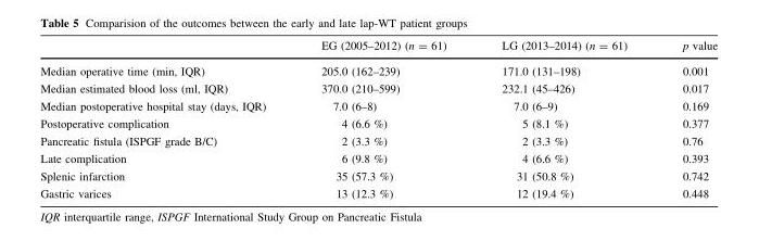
<table><thead><tr><td></td><td>EG (2005–2012) (n = 61)</td><td>LG (2013–2014) (n = 61)</td><td>p value</td></tr></thead><tbody><tr><td>Median operative time (min, IQR)</td><td>205.0 (162–239)</td><td>171.0 (131–198)</td><td>0.001</td></tr><tr><td>Median estimated blood loss (ml, IQR)</td><td>370.0 (210–599)</td><td>232.1 (45–426)</td><td>0.017</td></tr><tr><td>Median postoperative hospital stay (days, IQR)</td><td>7.0 (6–8)</td><td>7.0 (6–9)</td><td>0.169</td></tr><tr><td>Postoperative complication</td><td>4 (6.6 %)</td><td>5 (8.1 %)</td><td>0.377</td></tr><tr><td>Pancreatic fistula (ISPGF grade B/C)</td><td>2 (3.3 %)</td><td>2 (3.3 %)</td><td>0.76</td></tr><tr><td>Late complication</td><td>6 (9.8 %)</td><td>4 (6.6 %)</td><td>0.393</td></tr><tr><td>Splenic infarction</td><td>35 (57.3 %)</td><td>31 (50.8 %)</td><td>0.742</td></tr><tr><td>Gastric varices</td><td>13 (12.3 %)</td><td>12 (19.4 %)</td><td>0.448</td></tr></tbody></table>